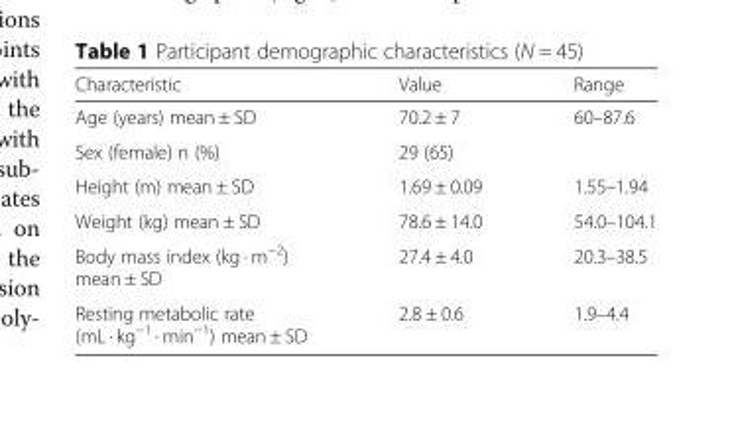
<table><thead><tr><td>Characteristic</td><td>Value</td><td>Range</td></tr></thead><tbody><tr><td>Age (years) mean ± SD</td><td>70.2 ± 7</td><td>60–87.6</td></tr><tr><td>Sex (female) n (%)</td><td>29 (65)</td><td></td></tr><tr><td>Height (m) mean ± SD</td><td>1.69 ± 0.09</td><td>1.55–1.94</td></tr><tr><td>Weight (kg) mean ± SD</td><td>78.6 ± 14.0</td><td>54.0–104.1</td></tr><tr><td>Body mass index (kg · m<sup>−2</sup>) mean ± SD</td><td>27.4 ± 4.0</td><td>20.3–38.5</td></tr><tr><td>Resting metabolic rate (mL · kg<sup>−1</sup> · min<sup>−1</sup>) mean ± SD</td><td>2.8 ± 0.6</td><td>1.9–4.4</td></tr></tbody></table>